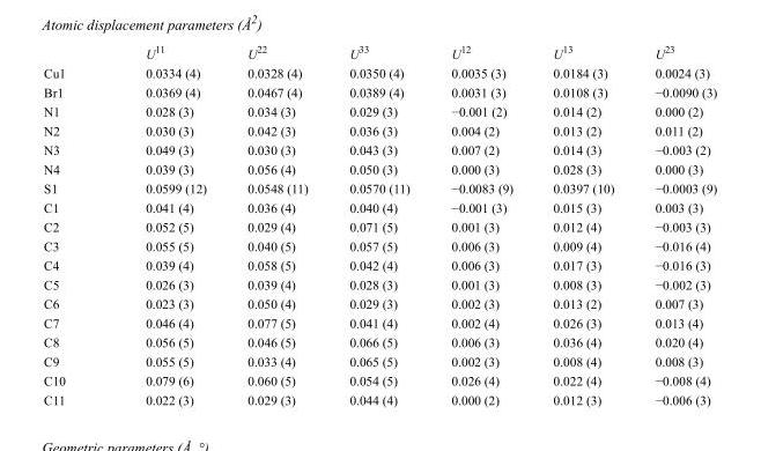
<table><thead><tr><td></td><td>U<sup>11</sup></td><td>U<sup>22</sup></td><td>U<sup>33</sup></td><td>U<sup>12</sup></td><td>U<sup>13</sup></td><td>U<sup>23</sup></td></tr></thead><tbody><tr><td>Cu1</td><td>0.0334 (4)</td><td>0.0328 (4)</td><td>0.0350 (4)</td><td>0.0035 (3)</td><td>0.0184 (3)</td><td>0.0024 (3)</td></tr><tr><td>Br1</td><td>0.0369 (4)</td><td>0.0467 (4)</td><td>0.0389 (4)</td><td>0.0031 (3)</td><td>0.0108 (3)</td><td>−0.0090 (3)</td></tr><tr><td>N1</td><td>0.028 (3)</td><td>0.034 (3)</td><td>0.029 (3)</td><td>−0.001 (2)</td><td>0.014 (2)</td><td>0.000 (2)</td></tr><tr><td>N2</td><td>0.030 (3)</td><td>0.042 (3)</td><td>0.036 (3)</td><td>0.004 (2)</td><td>0.013 (2)</td><td>0.011 (2)</td></tr><tr><td>N3</td><td>0.049 (3)</td><td>0.030 (3)</td><td>0.043 (3)</td><td>0.007 (2)</td><td>0.014 (3)</td><td>−0.003 (2)</td></tr><tr><td>N4</td><td>0.039 (3)</td><td>0.056 (4)</td><td>0.050 (3)</td><td>0.000 (3)</td><td>0.028 (3)</td><td>0.000 (3)</td></tr><tr><td>S1</td><td>0.0599 (12)</td><td>0.0548 (11)</td><td>0.0570 (11)</td><td>−0.0083 (9)</td><td>0.0397 (10)</td><td>−0.0003 (9)</td></tr><tr><td>C1</td><td>0.041 (4)</td><td>0.036 (4)</td><td>0.040 (4)</td><td>−0.001 (3)</td><td>0.015 (3)</td><td>0.003 (3)</td></tr><tr><td>C2</td><td>0.052 (5)</td><td>0.029 (4)</td><td>0.071 (5)</td><td>0.001 (3)</td><td>0.012 (4)</td><td>−0.003 (3)</td></tr><tr><td>C3</td><td>0.055 (5)</td><td>0.040 (5)</td><td>0.057 (5)</td><td>0.006 (3)</td><td>0.009 (4)</td><td>−0.016 (4)</td></tr><tr><td>C4</td><td>0.039 (4)</td><td>0.058 (5)</td><td>0.042 (4)</td><td>0.006 (3)</td><td>0.017 (3)</td><td>−0.016 (3)</td></tr><tr><td>C5</td><td>0.026 (3)</td><td>0.039 (4)</td><td>0.028 (3)</td><td>0.001 (3)</td><td>0.008 (3)</td><td>−0.002 (3)</td></tr><tr><td>C6</td><td>0.023 (3)</td><td>0.050 (4)</td><td>0.029 (3)</td><td>0.002 (3)</td><td>0.013 (2)</td><td>0.007 (3)</td></tr><tr><td>C7</td><td>0.046 (4)</td><td>0.077 (5)</td><td>0.041 (4)</td><td>0.002 (4)</td><td>0.026 (3)</td><td>0.013 (4)</td></tr><tr><td>C8</td><td>0.056 (5)</td><td>0.046 (5)</td><td>0.066 (5)</td><td>0.006 (3)</td><td>0.036 (4)</td><td>0.020 (4)</td></tr><tr><td>C9</td><td>0.055 (5)</td><td>0.033 (4)</td><td>0.065 (5)</td><td>0.002 (3)</td><td>0.008 (4)</td><td>0.008 (3)</td></tr><tr><td>C10</td><td>0.079 (6)</td><td>0.060 (5)</td><td>0.054 (5)</td><td>0.026 (4)</td><td>0.022 (4)</td><td>−0.008 (4)</td></tr><tr><td>C11</td><td>0.022 (3)</td><td>0.029 (3)</td><td>0.044 (4)</td><td>0.000 (2)</td><td>0.012 (3)</td><td>−0.006 (3)</td></tr></tbody></table>